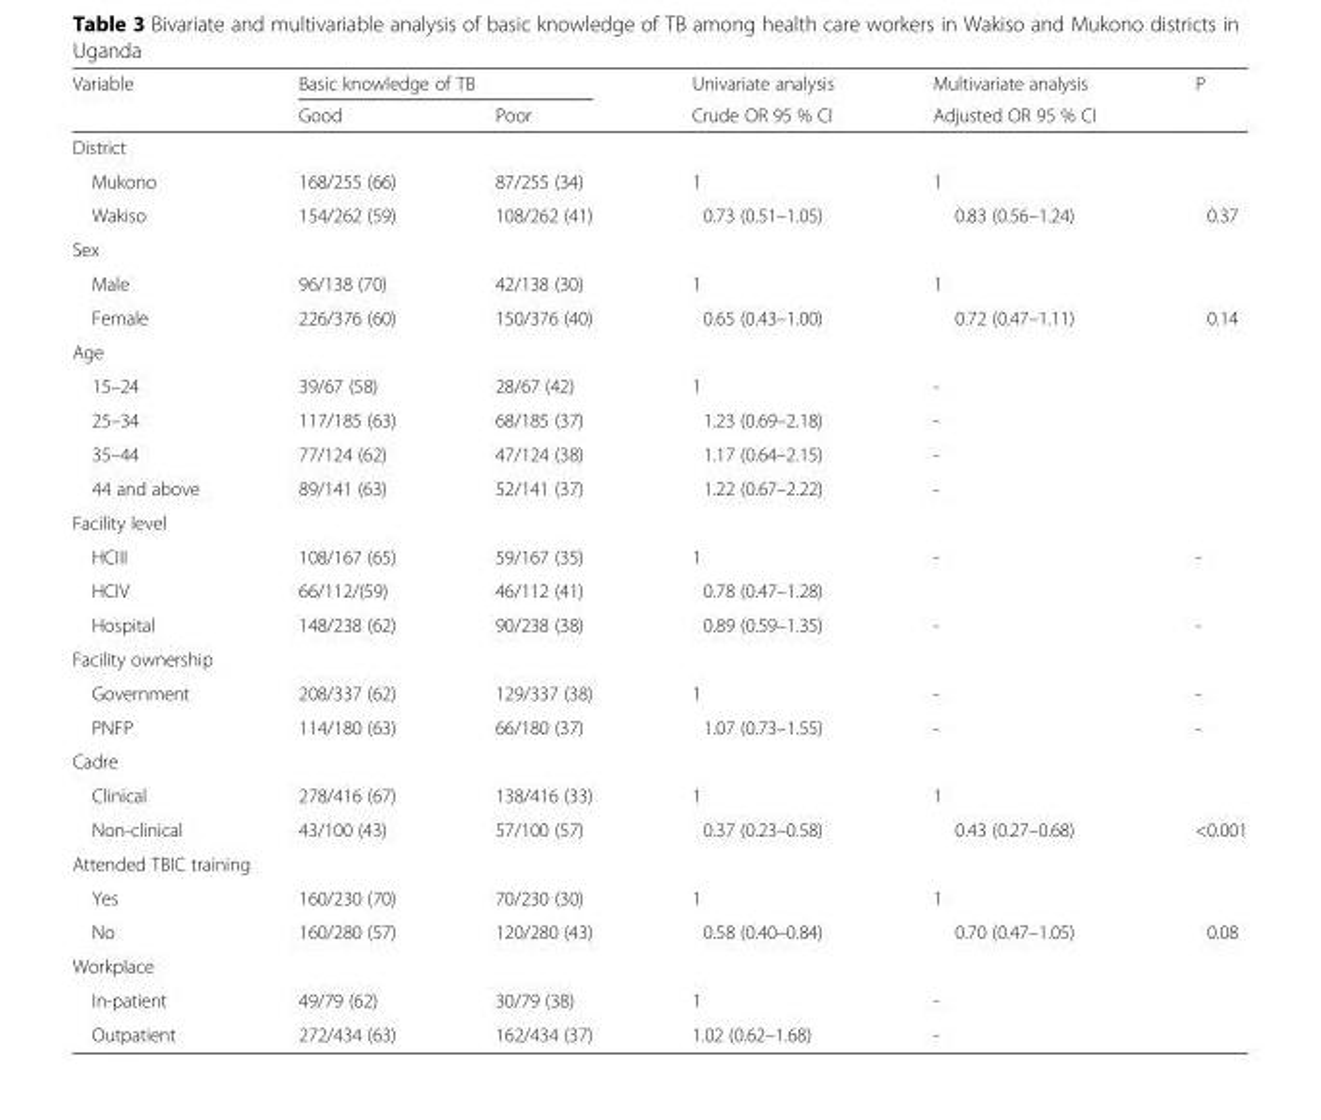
<table><thead><tr><td rowspan="2">Variable</td><td colspan="2">Basic knowledge of TB</td><td rowspan="2">Univariate analysis Crude OR 95 % CI</td><td rowspan="2">Multivariate analysis Adjusted OR 95 % CI</td><td rowspan="2">P</td></tr><tr><td>Good</td><td>Poor</td></tr></thead><tbody><tr><td colspan="6">District</td></tr><tr><td>Mukono</td><td>168/255 (66)</td><td>87/255 (34)</td><td>1</td><td>1</td><td></td></tr><tr><td>Wakiso</td><td>154/262 (59)</td><td>108/262 (41)</td><td>0.73 (0.51–1.05)</td><td>0.83 (0.56–1.24)</td><td>0.37</td></tr><tr><td colspan="6">Sex</td></tr><tr><td>Male</td><td>96/138 (70)</td><td>42/138 (30)</td><td>1</td><td>1</td><td></td></tr><tr><td>Female</td><td>226/376 (60)</td><td>150/376 (40)</td><td>0.65 (0.43–1.00)</td><td>0.72 (0.47–1.11)</td><td>0.14</td></tr><tr><td colspan="6">Age</td></tr><tr><td>15–24</td><td>39/67 (58)</td><td>28/67 (42)</td><td>1</td><td>-</td><td></td></tr><tr><td>25–34</td><td>117/185 (63)</td><td>68/185 (37)</td><td>1.23 (0.69–2.18)</td><td>-</td><td></td></tr><tr><td>35–44</td><td>77/124 (62)</td><td>47/124 (38)</td><td>1.17 (0.64–2.15)</td><td>-</td><td></td></tr><tr><td>44 and above</td><td>89/141 (63)</td><td>52/141 (37)</td><td>1.22 (0.67–2.22)</td><td>-</td><td></td></tr><tr><td colspan="6">Facility level</td></tr><tr><td>HCIII</td><td>108/167 (65)</td><td>59/167 (35)</td><td>1</td><td>-</td><td>-</td></tr><tr><td>HCIV</td><td>66/112/(59)</td><td>46/112 (41)</td><td>0.78 (0.47–1.28)</td><td></td><td></td></tr><tr><td>Hospital</td><td>148/238 (62)</td><td>90/238 (38)</td><td>0.89 (0.59–1.35)</td><td>-</td><td>-</td></tr><tr><td colspan="6">Facility ownership</td></tr><tr><td>Government</td><td>208/337 (62)</td><td>129/337 (38)</td><td>1</td><td>-</td><td>-</td></tr><tr><td>PNFP</td><td>114/180 (63)</td><td>66/180 (37)</td><td>1.07 (0.73–1.55)</td><td>-</td><td>-</td></tr><tr><td colspan="6">Cadre</td></tr><tr><td>Clinical</td><td>278/416 (67)</td><td>138/416 (33)</td><td>1</td><td>1</td><td></td></tr><tr><td>Non-clinical</td><td>43/100 (43)</td><td>57/100 (57)</td><td>0.37 (0.23–0.58)</td><td>0.43 (0.27–0.68)</td><td>&lt;0.001</td></tr><tr><td colspan="6">Attended TBIC training</td></tr><tr><td>Yes</td><td>160/230 (70)</td><td>70/230 (30)</td><td>1</td><td>1</td><td></td></tr><tr><td>No</td><td>160/280 (57)</td><td>120/280 (43)</td><td>0.58 (0.40–0.84)</td><td>0.70 (0.47–1.05)</td><td>0.08</td></tr><tr><td colspan="6">Workplace</td></tr><tr><td>In-patient</td><td>49/79 (62)</td><td>30/79 (38)</td><td>1</td><td>-</td><td></td></tr><tr><td>Outpatient</td><td>272/434 (63)</td><td>162/434 (37)</td><td>1.02 (0.62–1.68)</td><td>-</td><td></td></tr></tbody></table>